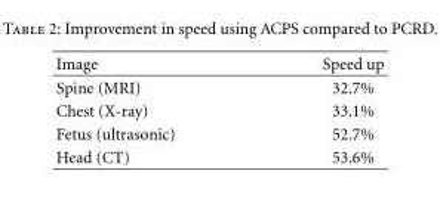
<table><thead><tr><td>Image</td><td>Speed up</td></tr></thead><tbody><tr><td>Spine (MRI)</td><td>32.7%</td></tr><tr><td>Chest (X-ray)</td><td>33.1%</td></tr><tr><td>Fetus (ultrasonic)</td><td>52.7%</td></tr><tr><td>Head (CT)</td><td>53.6%</td></tr></tbody></table>